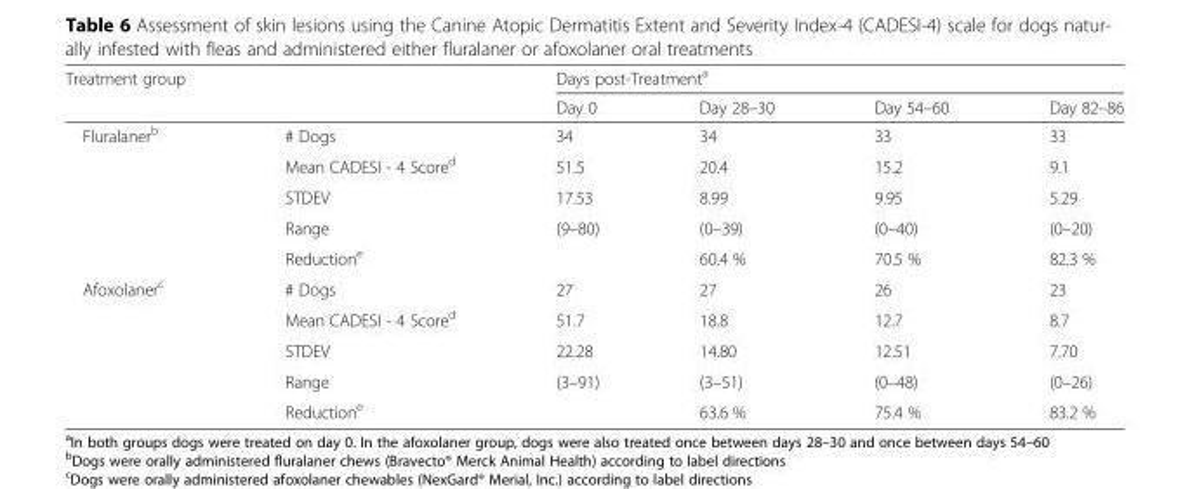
<table><thead><tr><td rowspan="2">Treatment group</td><td rowspan="2"></td><td colspan="4">Days post-Treatment<sup>a</sup></td></tr><tr><td>Day 0</td><td>Day 28–30</td><td>Day 54–60</td><td>Day 82–86</td></tr></thead><tbody><tr><td rowspan="5">Fluralaner<sup>b</sup></td><td># Dogs</td><td>34</td><td>34</td><td>33</td><td>33</td></tr><tr><td>Mean CADESI - 4 Score<sup>d</sup></td><td>51.5</td><td>20.4</td><td>15.2</td><td>9.1</td></tr><tr><td>STDEV</td><td>17.53</td><td>8.99</td><td>9.95</td><td>5.29</td></tr><tr><td>Range</td><td>(9–80)</td><td>(0–39)</td><td>(0–40)</td><td>(0–20)</td></tr><tr><td>Reduction<sup>e</sup></td><td></td><td>60.4 %</td><td>70.5 %</td><td>82.3 %</td></tr><tr><td rowspan="5">Afoxolaner<sup>c</sup></td><td># Dogs</td><td>27</td><td>27</td><td>26</td><td>23</td></tr><tr><td>Mean CADESI - 4 Score<sup>d</sup></td><td>51.7</td><td>18.8</td><td>12.7</td><td>8.7</td></tr><tr><td>STDEV</td><td>22.28</td><td>14.80</td><td>12.51</td><td>7.70</td></tr><tr><td>Range</td><td>(3–91)</td><td>(3–51)</td><td>(0–48)</td><td>(0–26)</td></tr><tr><td>Reduction<sup>e</sup></td><td></td><td>63.6 %</td><td>75.4 %</td><td>83.2 %</td></tr></tbody></table>